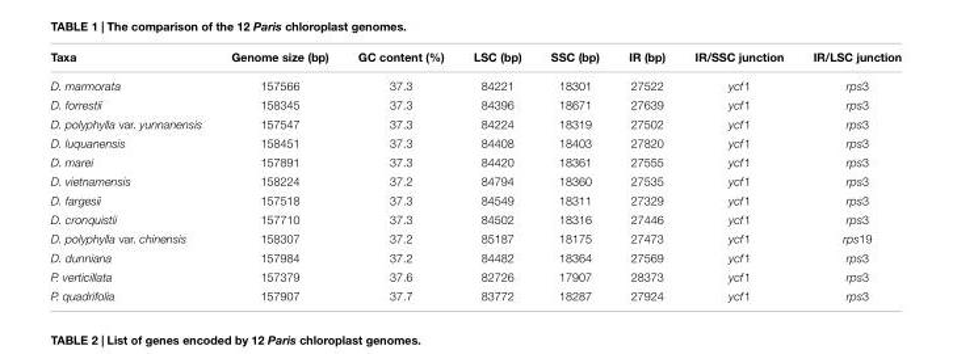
<table><thead><tr><td>Taxa</td><td>Genome size (bp)</td><td>GC content (%)</td><td>LSC (bp)</td><td>SSC (bp)</td><td>IR (bp)</td><td>IR/SSC junction</td><td>IR/LSC junction</td></tr></thead><tbody><tr><td>D. marmorata</td><td>157566</td><td>37.3</td><td>84221</td><td>18301</td><td>27522</td><td>ycf1</td><td>rps3</td></tr><tr><td>D. forrestii</td><td>158345</td><td>37.3</td><td>84396</td><td>18671</td><td>27639</td><td>ycf1</td><td>rps3</td></tr><tr><td>D. polyphylla var. yunnanensis</td><td>157547</td><td>37.3</td><td>84224</td><td>18319</td><td>27502</td><td>ycf1</td><td>rps3</td></tr><tr><td>D. luquanensis</td><td>158451</td><td>37.3</td><td>84408</td><td>18403</td><td>27820</td><td>ycf1</td><td>rps3</td></tr><tr><td>D. marei</td><td>157891</td><td>37.3</td><td>84420</td><td>18361</td><td>27555</td><td>ycf1</td><td>rps3</td></tr><tr><td>D. vietnamensis</td><td>158224</td><td>37.2</td><td>84794</td><td>18360</td><td>27535</td><td>ycf1</td><td>rps3</td></tr><tr><td>D. fargesii</td><td>157518</td><td>37.3</td><td>84549</td><td>18311</td><td>27329</td><td>ycf1</td><td>rps3</td></tr><tr><td>D. cronquistii</td><td>157710</td><td>37.3</td><td>84502</td><td>18316</td><td>27446</td><td>ycf1</td><td>rps3</td></tr><tr><td>D. polyphylla var. chinensis</td><td>158307</td><td>37.2</td><td>85187</td><td>18175</td><td>27473</td><td>ycf1</td><td>rps19</td></tr><tr><td>D. dunniana</td><td>157984</td><td>37.2</td><td>84482</td><td>18364</td><td>27569</td><td>ycf1</td><td>rps3</td></tr><tr><td>P. verticillata</td><td>157379</td><td>37.6</td><td>82726</td><td>17907</td><td>28373</td><td>ycf1</td><td>rps3</td></tr><tr><td>P. quadrifolia</td><td>157907</td><td>37.7</td><td>83772</td><td>18287</td><td>27924</td><td>ycf1</td><td>rps3</td></tr></tbody></table>